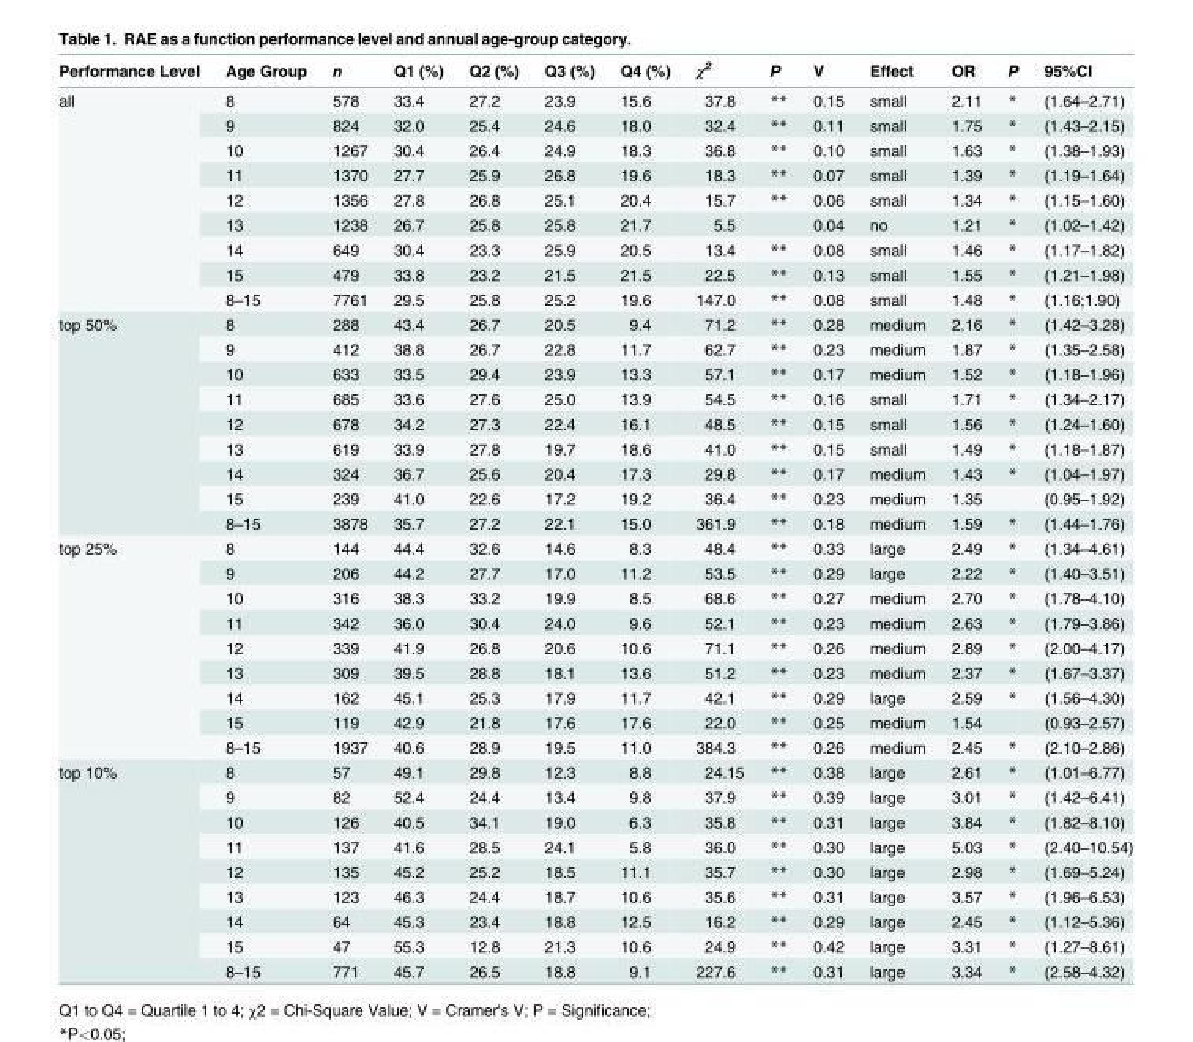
<table><thead><tr><td>Performance Level</td><td>Age Group</td><td>n</td><td>Q1 (%)</td><td>Q2 (%)</td><td>Q3 (%)</td><td>Q4 (%)</td><td>χ<sup>2</sup></td><td>P</td><td>V</td><td>Effect</td><td>OR</td><td>P</td><td>95%CI</td></tr></thead><tbody><tr><td rowspan="9">all</td><td>8</td><td>578</td><td>33.4</td><td>27.2</td><td>23.9</td><td>15.6</td><td>37.8</td><td>**</td><td>0.15</td><td>small</td><td>2.11</td><td>*</td><td>(1.64–2.71)</td></tr><tr><td>9</td><td>824</td><td>32.0</td><td>25.4</td><td>24.6</td><td>18.0</td><td>32.4</td><td>**</td><td>0.11</td><td>small</td><td>1.75</td><td>*</td><td>(1.43–2.15)</td></tr><tr><td>10</td><td>1267</td><td>30.4</td><td>26.4</td><td>24.9</td><td>18.3</td><td>36.8</td><td>**</td><td>0.10</td><td>small</td><td>1.63</td><td>*</td><td>(1.38–1.93)</td></tr><tr><td>11</td><td>1370</td><td>27.7</td><td>25.9</td><td>26.8</td><td>19.6</td><td>18.3</td><td>**</td><td>0.07</td><td>small</td><td>1.39</td><td>*</td><td>(1.19–1.64)</td></tr><tr><td>12</td><td>1356</td><td>27.8</td><td>26.8</td><td>25.1</td><td>20.4</td><td>15.7</td><td>**</td><td>0.06</td><td>small</td><td>1.34</td><td>*</td><td>(1.15–1.60)</td></tr><tr><td>13</td><td>1238</td><td>26.7</td><td>25.8</td><td>25.8</td><td>21.7</td><td>5.5</td><td></td><td>0.04</td><td>no</td><td>1.21</td><td>*</td><td>(1.02–1.42)</td></tr><tr><td>14</td><td>649</td><td>30.4</td><td>23.3</td><td>25.9</td><td>20.5</td><td>13.4</td><td>**</td><td>0.08</td><td>small</td><td>1.46</td><td>*</td><td>(1.17–1.82)</td></tr><tr><td>15</td><td>479</td><td>33.8</td><td>23.2</td><td>21.5</td><td>21.5</td><td>22.5</td><td>**</td><td>0.13</td><td>small</td><td>1.55</td><td>*</td><td>(1.21–1.98)</td></tr><tr><td>8–15</td><td>7761</td><td>29.5</td><td>25.8</td><td>25.2</td><td>19.6</td><td>147.0</td><td>**</td><td>0.08</td><td>small</td><td>1.48</td><td>*</td><td>(1.16;1.90)</td></tr><tr><td rowspan="9">top 50%</td><td>8</td><td>288</td><td>43.4</td><td>26.7</td><td>20.5</td><td>9.4</td><td>71.2</td><td>**</td><td>0.28</td><td>medium</td><td>2.16</td><td>*</td><td>(1.42–3.28)</td></tr><tr><td>9</td><td>412</td><td>38.8</td><td>26.7</td><td>22.8</td><td>11.7</td><td>62.7</td><td>**</td><td>0.23</td><td>medium</td><td>1.87</td><td>*</td><td>(1.35–2.58)</td></tr><tr><td>10</td><td>633</td><td>33.5</td><td>29.4</td><td>23.9</td><td>13.3</td><td>57.1</td><td>**</td><td>0.17</td><td>medium</td><td>1.52</td><td>*</td><td>(1.18–1.96)</td></tr><tr><td>11</td><td>685</td><td>33.6</td><td>27.6</td><td>25.0</td><td>13.9</td><td>54.5</td><td>**</td><td>0.16</td><td>small</td><td>1.71</td><td>*</td><td>(1.34–2.17)</td></tr><tr><td>12</td><td>678</td><td>34.2</td><td>27.3</td><td>22.4</td><td>16.1</td><td>48.5</td><td>**</td><td>0.15</td><td>small</td><td>1.56</td><td>*</td><td>(1.24–1.60)</td></tr><tr><td>13</td><td>619</td><td>33.9</td><td>27.8</td><td>19.7</td><td>18.6</td><td>41.0</td><td>**</td><td>0.15</td><td>small</td><td>1.49</td><td>*</td><td>(1.18–1.87)</td></tr><tr><td>14</td><td>324</td><td>36.7</td><td>25.6</td><td>20.4</td><td>17.3</td><td>29.8</td><td>**</td><td>0.17</td><td>medium</td><td>1.43</td><td>*</td><td>(1.04–1.97)</td></tr><tr><td>15</td><td>239</td><td>41.0</td><td>22.6</td><td>17.2</td><td>19.2</td><td>36.4</td><td>**</td><td>0.23</td><td>medium</td><td>1.35</td><td></td><td>(0.95–1.92)</td></tr><tr><td>8–15</td><td>3878</td><td>35.7</td><td>27.2</td><td>22.1</td><td>15.0</td><td>361.9</td><td>**</td><td>0.18</td><td>medium</td><td>1.59</td><td>*</td><td>(1.44–1.76)</td></tr><tr><td rowspan="9">top 25%</td><td>8</td><td>144</td><td>44.4</td><td>32.6</td><td>14.6</td><td>8.3</td><td>48.4</td><td>**</td><td>0.33</td><td>large</td><td>2.49</td><td>*</td><td>(1.34–4.61)</td></tr><tr><td>9</td><td>206</td><td>44.2</td><td>27.7</td><td>17.0</td><td>11.2</td><td>53.5</td><td>**</td><td>0.29</td><td>large</td><td>2.22</td><td>*</td><td>(1.40–3.51)</td></tr><tr><td>10</td><td>316</td><td>38.3</td><td>33.2</td><td>19.9</td><td>8.5</td><td>68.6</td><td>**</td><td>0.27</td><td>medium</td><td>2.70</td><td>*</td><td>(1.78–4.10)</td></tr><tr><td>11</td><td>342</td><td>36.0</td><td>30.4</td><td>24.0</td><td>9.6</td><td>52.1</td><td>**</td><td>0.23</td><td>medium</td><td>2.63</td><td>*</td><td>(1.79–3.86)</td></tr><tr><td>12</td><td>339</td><td>41.9</td><td>26.8</td><td>20.6</td><td>10.6</td><td>71.1</td><td>**</td><td>0.26</td><td>medium</td><td>2.89</td><td>*</td><td>(2.00–4.17)</td></tr><tr><td>13</td><td>309</td><td>39.5</td><td>28.8</td><td>18.1</td><td>13.6</td><td>51.2</td><td>**</td><td>0.23</td><td>medium</td><td>2.37</td><td>*</td><td>(1.67–3.37)</td></tr><tr><td>14</td><td>162</td><td>45.1</td><td>25.3</td><td>17.9</td><td>11.7</td><td>42.1</td><td>**</td><td>0.29</td><td>large</td><td>2.59</td><td>*</td><td>(1.56–4.30)</td></tr><tr><td>15</td><td>119</td><td>42.9</td><td>21.8</td><td>17.6</td><td>17.6</td><td>22.0</td><td>**</td><td>0.25</td><td>medium</td><td>1.54</td><td></td><td>(0.93–2.57)</td></tr><tr><td>8–15</td><td>1937</td><td>40.6</td><td>28.9</td><td>19.5</td><td>11.0</td><td>384.3</td><td>**</td><td>0.26</td><td>medium</td><td>2.45</td><td>*</td><td>(2.10–2.86)</td></tr><tr><td rowspan="9">top 10%</td><td>8</td><td>57</td><td>49.1</td><td>29.8</td><td>12.3</td><td>8.8</td><td>24.15</td><td>**</td><td>0.38</td><td>large</td><td>2.61</td><td>*</td><td>(1.01–6.77)</td></tr><tr><td>9</td><td>82</td><td>52.4</td><td>24.4</td><td>13.4</td><td>9.8</td><td>37.9</td><td>**</td><td>0.39</td><td>large</td><td>3.01</td><td>*</td><td>(1.42–6.41)</td></tr><tr><td>10</td><td>126</td><td>40.5</td><td>34.1</td><td>19.0</td><td>6.3</td><td>35.8</td><td>**</td><td>0.31</td><td>large</td><td>3.84</td><td>*</td><td>(1.82–8.10)</td></tr><tr><td>11</td><td>137</td><td>41.6</td><td>28.5</td><td>24.1</td><td>5.8</td><td>36.0</td><td>**</td><td>0.30</td><td>large</td><td>5.03</td><td>*</td><td>(2.40–10.54)</td></tr><tr><td>12</td><td>135</td><td>45.2</td><td>25.2</td><td>18.5</td><td>11.1</td><td>35.7</td><td>**</td><td>0.30</td><td>large</td><td>2.98</td><td>*</td><td>(1.69–5.24)</td></tr><tr><td>13</td><td>123</td><td>46.3</td><td>24.4</td><td>18.7</td><td>10.6</td><td>35.6</td><td>**</td><td>0.31</td><td>large</td><td>3.57</td><td>*</td><td>(1.96–6.53)</td></tr><tr><td>14</td><td>64</td><td>45.3</td><td>23.4</td><td>18.8</td><td>12.5</td><td>16.2</td><td>**</td><td>0.29</td><td>large</td><td>2.45</td><td>*</td><td>(1.12–5.36)</td></tr><tr><td>15</td><td>47</td><td>55.3</td><td>12.8</td><td>21.3</td><td>10.6</td><td>24.9</td><td>**</td><td>0.42</td><td>large</td><td>3.31</td><td>*</td><td>(1.27–8.61)</td></tr><tr><td>8–15</td><td>771</td><td>45.7</td><td>26.5</td><td>18.8</td><td>9.1</td><td>227.6</td><td>**</td><td>0.31</td><td>large</td><td>3.34</td><td>*</td><td>(2.58–4.32)</td></tr></tbody></table>